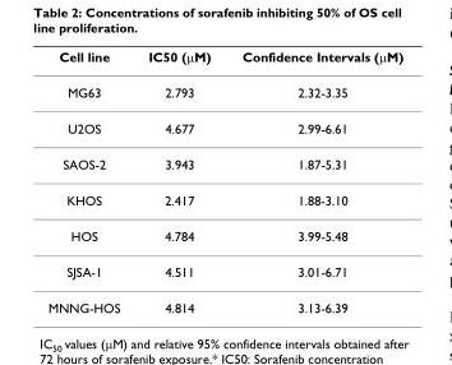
<table><thead><tr><td>Cell line</td><td>IC50 (μM)</td><td>Confidence Intervals (μM)</td></tr></thead><tbody><tr><td>MG63</td><td>2.793</td><td>2.32-3.35</td></tr><tr><td>U2OS</td><td>4.677</td><td>2.99-6.61</td></tr><tr><td>SAOS-2</td><td>3.943</td><td>1.87-5.31</td></tr><tr><td>KHOS</td><td>2.417</td><td>1.88-3.10</td></tr><tr><td>HOS</td><td>4.784</td><td>3.99-5.48</td></tr><tr><td>SJSA-1</td><td>4.511</td><td>3.01-6.71</td></tr><tr><td>MNNG-HOS</td><td>4.814</td><td>3.13-6.39</td></tr></tbody></table>